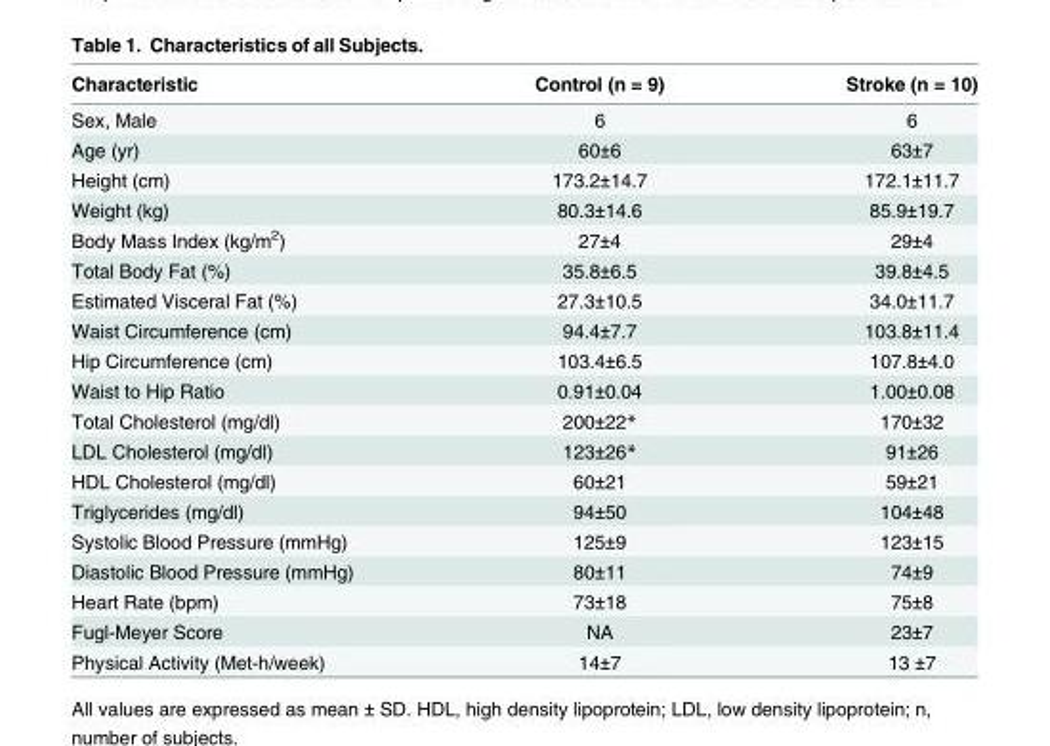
<table><thead><tr><td>Characteristic</td><td>Control (n = 9)</td><td>Stroke (n = 10)</td></tr></thead><tbody><tr><td>Sex, Male</td><td>6</td><td>6</td></tr><tr><td>Age (yr)</td><td>60±6</td><td>63±7</td></tr><tr><td>Height (cm)</td><td>173.2±14.7</td><td>172.1±11.7</td></tr><tr><td>Weight (kg)</td><td>80.3±14.6</td><td>85.9±19.7</td></tr><tr><td>Body Mass Index (kg/m<sup>2</sup>)</td><td>27±4</td><td>29±4</td></tr><tr><td>Total Body Fat (%)</td><td>35.8±6.5</td><td>39.8±4.5</td></tr><tr><td>Estimated Visceral Fat (%)</td><td>27.3±10.5</td><td>34.0±11.7</td></tr><tr><td>Waist Circumference (cm)</td><td>94.4±7.7</td><td>103.8±11.4</td></tr><tr><td>Hip Circumference (cm)</td><td>103.4±6.5</td><td>107.8±4.0</td></tr><tr><td>Waist to Hip Ratio</td><td>0.91±0.04</td><td>1.00±0.08</td></tr><tr><td>Total Cholesterol (mg/dl)</td><td>200±22*</td><td>170±32</td></tr><tr><td>LDL Cholesterol (mg/dl)</td><td>123±26*</td><td>91±26</td></tr><tr><td>HDL Cholesterol (mg/dl)</td><td>60±21</td><td>59±21</td></tr><tr><td>Triglycerides (mg/dl)</td><td>94±50</td><td>104±48</td></tr><tr><td>Systolic Blood Pressure (mmHg)</td><td>125±9</td><td>123±15</td></tr><tr><td>Diastolic Blood Pressure (mmHg)</td><td>80±11</td><td>74±9</td></tr><tr><td>Heart Rate (bpm)</td><td>73±18</td><td>75±8</td></tr><tr><td>Fugl-Meyer Score</td><td>NA</td><td>23±7</td></tr><tr><td>Physical Activity (Met-h/week)</td><td>14±7</td><td>13 ±7</td></tr></tbody></table>